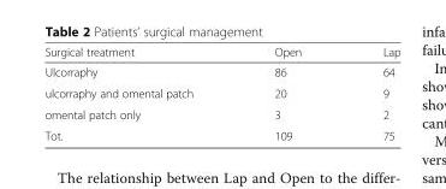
<table><thead><tr><td>Surgical treatment</td><td>Open</td><td>Lap</td></tr></thead><tbody><tr><td>Ulcorraphy</td><td>86</td><td>64</td></tr><tr><td>ulcorraphy and omental patch</td><td>20</td><td>9</td></tr><tr><td>omental patch only</td><td>3</td><td>2</td></tr><tr><td>Tot.</td><td>109</td><td>75</td></tr></tbody></table>